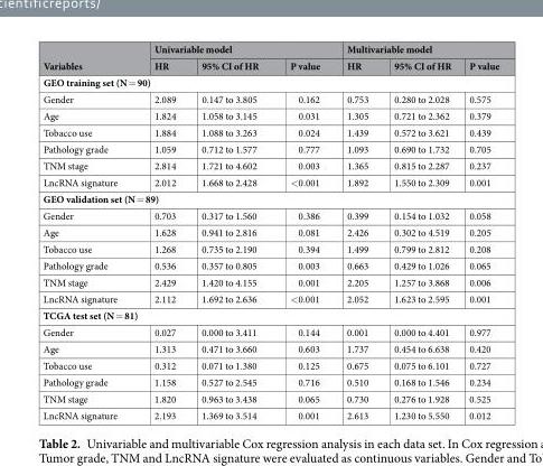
<table><thead><tr><td rowspan="2">Variables</td><td colspan="3">Univariable model</td><td colspan="3">Multivariable model</td></tr><tr><td>HR</td><td>95% CI of HR</td><td>P value</td><td>HR</td><td>95% CI of HR</td><td>P value</td></tr></thead><tbody><tr><td colspan="7">GEO training set (N = 90)</td></tr><tr><td>Gender</td><td>2.089</td><td>0.147 to 3.805</td><td>0.162</td><td>0.753</td><td>0.280 to 2.028</td><td>0.575</td></tr><tr><td>Age</td><td>1.824</td><td>1.058 to 3.145</td><td>0.031</td><td>1.305</td><td>0.721 to 2.362</td><td>0.379</td></tr><tr><td>Tobacco use</td><td>1.884</td><td>1.088 to 3.263</td><td>0.024</td><td>1.439</td><td>0.572 to 3.621</td><td>0.439</td></tr><tr><td>Pathology grade</td><td>1.059</td><td>0.712 to 1.577</td><td>0.777</td><td>1.093</td><td>0.690 to 1.732</td><td>0.705</td></tr><tr><td>TNM stage</td><td>2.814</td><td>1.721 to 4.602</td><td>0.003</td><td>1.365</td><td>0.815 to 2.287</td><td>0.237</td></tr><tr><td>LncRNA signature</td><td>2.012</td><td>1.668 to 2.428</td><td>&lt;0.001</td><td>1.892</td><td>1.550 to 2.309</td><td>0.001</td></tr><tr><td colspan="7">GEO validation set (N = 89)</td></tr><tr><td>Gender</td><td>0.703</td><td>0.317 to 1.560</td><td>0.386</td><td>0.399</td><td>0.154 to 1.032</td><td>0.058</td></tr><tr><td>Age</td><td>1.628</td><td>0.941 to 2.816</td><td>0.081</td><td>2.426</td><td>0.302 to 4.519</td><td>0.205</td></tr><tr><td>Tobacco use</td><td>1.268</td><td>0.735 to 2.190</td><td>0.394</td><td>1.499</td><td>0.799 to 2.812</td><td>0.208</td></tr><tr><td>Pathology grade</td><td>0.536</td><td>0.357 to 0.805</td><td>0.003</td><td>0.663</td><td>0.429 to 1.026</td><td>0.065</td></tr><tr><td>TNM stage</td><td>2.429</td><td>1.420 to 4.155</td><td>0.001</td><td>2.205</td><td>1.257 to 3.868</td><td>0.006</td></tr><tr><td>LncRNA signature</td><td>2.112</td><td>1.692 to 2.636</td><td>&lt;0.001</td><td>2.052</td><td>1.623 to 2.595</td><td>0.001</td></tr><tr><td colspan="7">TCGA test set (N = 81)</td></tr><tr><td>Gender</td><td>0.027</td><td>0.000 to 3.411</td><td>0.144</td><td>0.001</td><td>0.000 to 4.401</td><td>0.977</td></tr><tr><td>Age</td><td>1.313</td><td>0.471 to 3.660</td><td>0.603</td><td>1.737</td><td>0.454 to 6.638</td><td>0.420</td></tr><tr><td>Tobacco use</td><td>0.312</td><td>0.071 to 1.380</td><td>0.125</td><td>0.675</td><td>0.075 to 6.101</td><td>0.727</td></tr><tr><td>Pathology grade</td><td>1.158</td><td>0.527 to 2.545</td><td>0.716</td><td>0.510</td><td>0.168 to 1.546</td><td>0.234</td></tr><tr><td>TNM stage</td><td>1.820</td><td>0.963 to 3.438</td><td>0.065</td><td>0.730</td><td>0.276 to 1.928</td><td>0.525</td></tr><tr><td>LncRNA signature</td><td>2.193</td><td>1.369 to 3.514</td><td>0.001</td><td>2.613</td><td>1.230 to 5.550</td><td>0.012</td></tr></tbody></table>